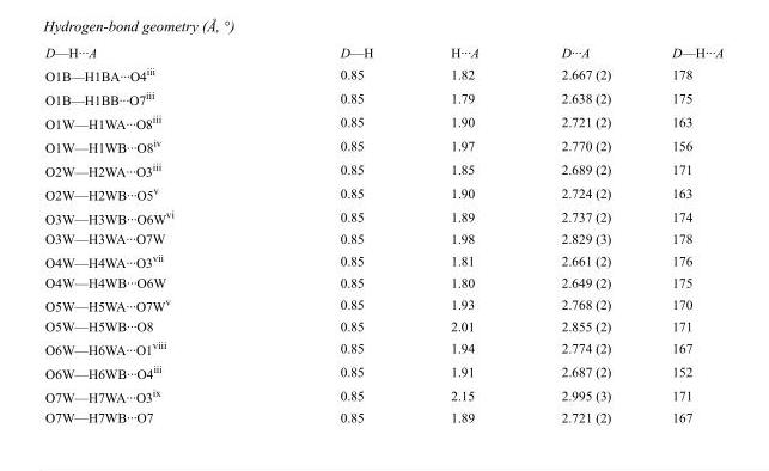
<table><tbody><tr><td>D—H···A</td><td>D—H</td><td>H···A</td><td>D···A</td><td>D—H···A</td></tr><tr><td>O1B—H1BA···O4<sup>iii</sup></td><td>0.85</td><td>1.82</td><td>2.667 (2)</td><td>178</td></tr><tr><td>O1B—H1BB···O7<sup>iii</sup></td><td>0.85</td><td>1.79</td><td>2.638 (2)</td><td>175</td></tr><tr><td>O1W—H1WA···O8<sup>iii</sup></td><td>0.85</td><td>1.90</td><td>2.721 (2)</td><td>163</td></tr><tr><td>O1W—H1WB···O8<sup>iv</sup></td><td>0.85</td><td>1.97</td><td>2.770 (2)</td><td>156</td></tr><tr><td>O2W—H2WA···O3<sup>iii</sup></td><td>0.85</td><td>1.85</td><td>2.689 (2)</td><td>171</td></tr><tr><td>O2W—H2WB···O5<sup>v</sup></td><td>0.85</td><td>1.90</td><td>2.724 (2)</td><td>163</td></tr><tr><td>O3W—H3WB···O6W<sup>vi</sup></td><td>0.85</td><td>1.89</td><td>2.737 (2)</td><td>174</td></tr><tr><td>O3W—H3WA···O7W</td><td>0.85</td><td>1.98</td><td>2.829 (3)</td><td>178</td></tr><tr><td>O4W—H4WA···O3<sup>vii</sup></td><td>0.85</td><td>1.81</td><td>2.661 (2)</td><td>176</td></tr><tr><td>O4W—H4WB···O6W</td><td>0.85</td><td>1.80</td><td>2.649 (2)</td><td>175</td></tr><tr><td>O5W—H5WA···O7W<sup>v</sup></td><td>0.85</td><td>1.93</td><td>2.768 (2)</td><td>170</td></tr><tr><td>O5W—H5WB···O8</td><td>0.85</td><td>2.01</td><td>2.855 (2)</td><td>171</td></tr><tr><td>O6W—H6WA···O1<sup>viii</sup></td><td>0.85</td><td>1.94</td><td>2.774 (2)</td><td>167</td></tr><tr><td>O6W—H6WB···O4<sup>iii</sup></td><td>0.85</td><td>1.91</td><td>2.687 (2)</td><td>152</td></tr><tr><td>O7W—H7WA···O3<sup>ix</sup></td><td>0.85</td><td>2.15</td><td>2.995 (3)</td><td>171</td></tr><tr><td>O7W—H7WB···O7</td><td>0.85</td><td>1.89</td><td>2.721 (2)</td><td>167</td></tr></tbody></table>